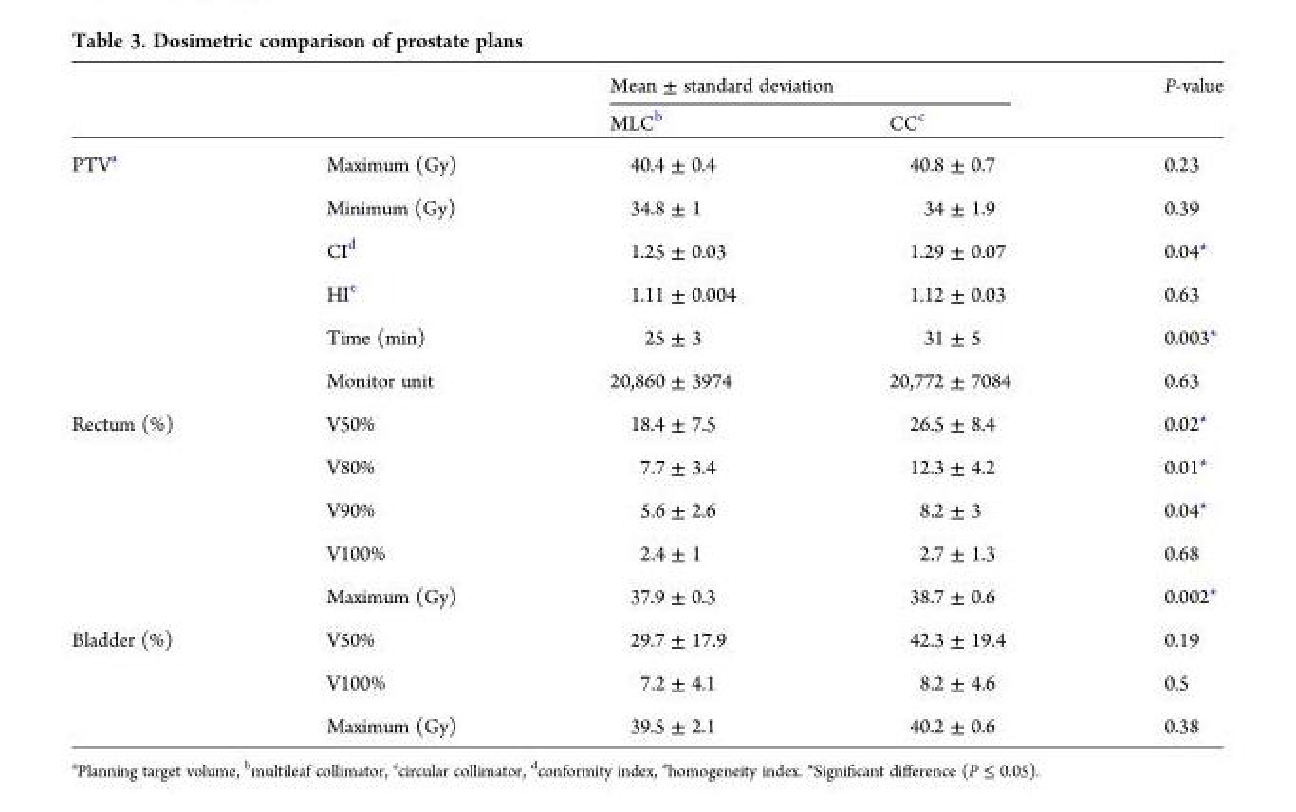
<table><thead><tr><td rowspan="2"></td><td rowspan="2"></td><td colspan="2">Mean ± standard deviation</td><td rowspan="2">P-value</td></tr><tr><td>MLC<sup>b</sup></td><td>CC<sup>c</sup></td></tr></thead><tbody><tr><td rowspan="6">PTV<sup>a</sup></td><td>Maximum (Gy)</td><td>40.4 ± 0.4</td><td>40.8 ± 0.7</td><td>0.23</td></tr><tr><td>Minimum (Gy)</td><td>34.8 ± 1</td><td>34 ± 1.9</td><td>0.39</td></tr><tr><td>CI<sup>d</sup></td><td>1.25 ± 0.03</td><td>1.29 ± 0.07</td><td>0.04*</td></tr><tr><td>HI<sup>e</sup></td><td>1.11 ± 0.004</td><td>1.12 ± 0.03</td><td>0.63</td></tr><tr><td>Time (min)</td><td>25 ± 3</td><td>31 ± 5</td><td>0.003*</td></tr><tr><td>Monitor unit</td><td>20,860 ± 3974</td><td>20,772 ± 7084</td><td>0.63</td></tr><tr><td rowspan="5">Rectum (%)</td><td>V50%</td><td>18.4 ± 7.5</td><td>26.5 ± 8.4</td><td>0.02*</td></tr><tr><td>V80%</td><td>7.7 ± 3.4</td><td>12.3 ± 4.2</td><td>0.01*</td></tr><tr><td>V90%</td><td>5.6 ± 2.6</td><td>8.2 ± 3</td><td>0.04*</td></tr><tr><td>V100%</td><td>2.4 ± 1</td><td>2.7 ± 1.3</td><td>0.68</td></tr><tr><td>Maximum (Gy)</td><td>37.9 ± 0.3</td><td>38.7 ± 0.6</td><td>0.002*</td></tr><tr><td rowspan="3">Bladder (%)</td><td>V50%</td><td>29.7 ± 17.9</td><td>42.3 ± 19.4</td><td>0.19</td></tr><tr><td>V100%</td><td>7.2 ± 4.1</td><td>8.2 ± 4.6</td><td>0.5</td></tr><tr><td>Maximum (Gy)</td><td>39.5 ± 2.1</td><td>40.2 ± 0.6</td><td>0.38</td></tr></tbody></table>